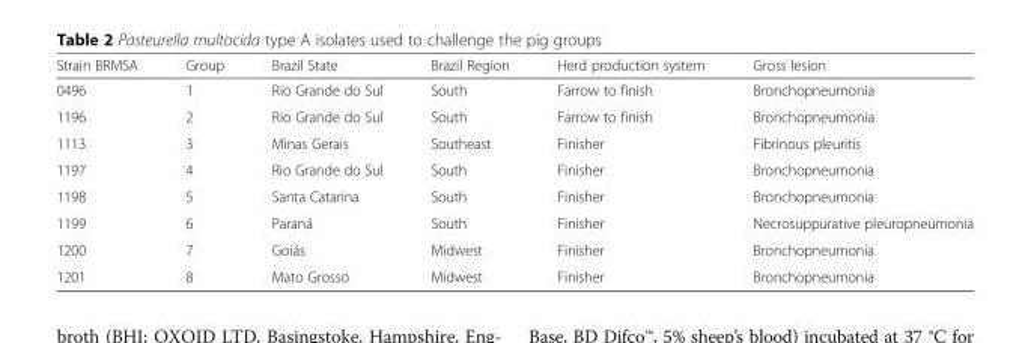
<table><thead><tr><td>Strain BRMSA</td><td>Group</td><td>Brazil State</td><td>Brazil Region</td><td>Herd production system</td><td>Gross lesion</td></tr></thead><tbody><tr><td>0496</td><td>1</td><td>Rio Grande do Sul</td><td>South</td><td>Farrow to finish</td><td>Bronchopneumonia</td></tr><tr><td>1196</td><td>2</td><td>Rio Grande do Sul</td><td>South</td><td>Farrow to finish</td><td>Bronchopneumonia</td></tr><tr><td>1113</td><td>3</td><td>Minas Gerais</td><td>Southeast</td><td>Finisher</td><td>Fibrinous pleuritis</td></tr><tr><td>1197</td><td>4</td><td>Rio Grande do Sul</td><td>South</td><td>Finisher</td><td>Bronchopneumonia</td></tr><tr><td>1198</td><td>5</td><td>Santa Catarina</td><td>South</td><td>Finisher</td><td>Bronchopneumonia</td></tr><tr><td>1199</td><td>6</td><td>Paraná</td><td>South</td><td>Finisher</td><td>Necrosuppurative pleuropneumonia</td></tr><tr><td>1200</td><td>7</td><td>Goiás</td><td>Midwest</td><td>Finisher</td><td>Bronchopneumonia</td></tr><tr><td>1201</td><td>8</td><td>Mato Grosso</td><td>Midwest</td><td>Finisher</td><td>Bronchopneumonia</td></tr></tbody></table>